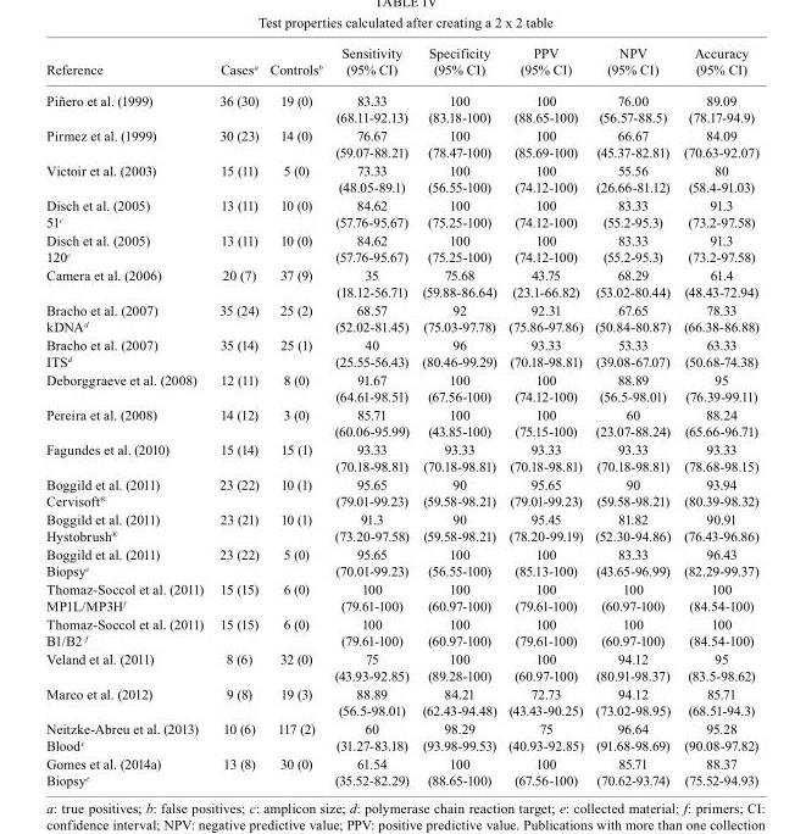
<table><thead><tr><td>Reference</td><td>Cases<sup>a</sup></td><td>Controls<sup>b</sup></td><td>Sensitivity (95% CI)</td><td>Specificity (95% CI)</td><td>PPV (95% CI)</td><td>NPV (95% CI)</td><td>Accuracy (95% CI)</td></tr></thead><tbody><tr><td>Piñero et al. (1999)</td><td>36 (30)</td><td>19 (0)</td><td>83.33 (68.11-92.13)</td><td>100 (83.18-100)</td><td>100 (88.65-100)</td><td>76.00 (56.57-88.5)</td><td>89.09 (78.17-94.9)</td></tr><tr><td>Pirmez et al. (1999)</td><td>30 (23)</td><td>14 (0)</td><td>76.67 (59.07-88.21)</td><td>100 (78.47-100)</td><td>100 (85.69-100)</td><td>66.67 (45.37-82.81)</td><td>84.09 (70.63-92.07)</td></tr><tr><td>Victoir et al. (2003)</td><td>15 (11)</td><td>5 (0)</td><td>73.33 (48.05-89.1)</td><td>100 (56.55-100)</td><td>100 (74.12-100)</td><td>55.56 (26.66-81.12)</td><td>80 (58.4-91.03)</td></tr><tr><td>Disch et al. (2005) 51<sup>c</sup></td><td>13 (11)</td><td>10 (0)</td><td>84.62 (57.76-95.67)</td><td>100 (75.25-100)</td><td>100 (74.12-100)</td><td>83.33 (55.2-95.3)</td><td>91.3 (73.2-97.58)</td></tr><tr><td>Disch et al. (2005) 120<sup>c</sup></td><td>13 (11)</td><td>10 (0)</td><td>84.62 (57.76-95.67)</td><td>100 (75.25-100)</td><td>100 (74.12-100)</td><td>83.33 (55.2-95.3)</td><td>91.3 (73.2-97.58)</td></tr><tr><td>Camera et al. (2006)</td><td>20 (7)</td><td>37 (9)</td><td>35 (18.12-56.71)</td><td>75.68 (59.88-86.64)</td><td>43.75 (23.1-66.82)</td><td>68.29 (53.02-80.44)</td><td>61.4 (48.43-72.94)</td></tr><tr><td>Bracho et al. (2007) kDNA<sup>d</sup></td><td>35 (24)</td><td>25 (2)</td><td>68.57 (52.02-81.45)</td><td>92 (75.03-97.78)</td><td>92.31 (75.86-97.86)</td><td>67.65 (50.84-80.87)</td><td>78.33 (66.38-86.88)</td></tr><tr><td>Bracho et al. (2007) ITS<sup>d</sup></td><td>35 (14)</td><td>25 (1)</td><td>40 (25.55-56.43)</td><td>96 (80.46-99.29)</td><td>93.33 (70.18-98.81)</td><td>53.33 (39.08-67.07)</td><td>63.33 (50.68-74.38)</td></tr><tr><td>Deborggraeve et al. (2008)</td><td>12 (11)</td><td>8 (0)</td><td>91.67 (64.61-98.51)</td><td>100 (67.56-100)</td><td>100 (74.12-100)</td><td>88.89 (56.5-98.01)</td><td>95 (76.39-99.11)</td></tr><tr><td>Pereira et al. (2008)</td><td>14 (12)</td><td>3 (0)</td><td>85.71 (60.06-95.99)</td><td>100 (43.85-100)</td><td>100 (75.15-100)</td><td>60 (23.07-88.24)</td><td>88.24 (65.66-96.71)</td></tr><tr><td>Fagundes et al. (2010)</td><td>15 (14)</td><td>15 (1)</td><td>93.33 (70.18-98.81)</td><td>93.33 (70.18-98.81)</td><td>93.33 (70.18-98.81)</td><td>93.33 (70.18-98.81)</td><td>93.33 (78.68-98.15)</td></tr><tr><td>Boggild et al. (2011) Cervisoft<sup>®</sup></td><td>23 (22)</td><td>10 (1)</td><td>95.65 (79.01-99.23)</td><td>90 (59.58-98.21)</td><td>95.65 (79.01-99.23)</td><td>90 (59.58-98.21)</td><td>93.94 (80.39-98.32)</td></tr><tr><td>Boggild et al. (2011) Hystobrush<sup>®</sup></td><td>23 (21)</td><td>10 (1)</td><td>91.3 (73.20-97.58)</td><td>90 (59.58-98.21)</td><td>95.45 (78.20-99.19)</td><td>81.82 (52.30-94.86)</td><td>90.91 (76.43-96.86)</td></tr><tr><td>Boggild et al. (2011) Biopsy<sup>e</sup></td><td>23 (22)</td><td>5 (0)</td><td>95.65 (70.01-99.23)</td><td>100 (56.55-100)</td><td>100 (85.13-100)</td><td>83.33 (43.65-96.99)</td><td>96.43 (82.29-99.37)</td></tr><tr><td>Thomaz-Soccol et al. (2011) MP1L/MP3H<sup>f</sup></td><td>15 (15)</td><td>6 (0)</td><td>100 (79.61-100)</td><td>100 (60.97-100)</td><td>100 (79.61-100)</td><td>100 (60.97-100)</td><td>100 (84.54-100)</td></tr><tr><td>Thomaz-Soccol et al. (2011) B1/B2 <sup>f</sup></td><td>15 (15)</td><td>6 (0)</td><td>100 (79.61-100)</td><td>100 (60.97-100)</td><td>100 (79.61-100)</td><td>100 (60.97-100)</td><td>100 (84.54-100)</td></tr><tr><td>Veland et al. (2011)</td><td>8 (6)</td><td>32 (0)</td><td>75 (43.93-92.85)</td><td>100 (89.28-100)</td><td>100 (60.97-100)</td><td>94.12 (80.91-98.37)</td><td>95 (83.5-98.62)</td></tr><tr><td>Marco et al. (2012)</td><td>9 (8)</td><td>19 (3)</td><td>88.89 (56.5-98.01)</td><td>84.21 (62.43-94.48)</td><td>72.73 (43.43-90.25)</td><td>94.12 (73.02-98.95)</td><td>85.71 (68.51-94.3)</td></tr><tr><td>Neitzke-Abreu et al. (2013) Blood<sup>e</sup></td><td>10 (6)</td><td>117 (2)</td><td>60 (31.27-83.18)</td><td>98.29 (93.98-99.53)</td><td>75 (40.93-92.85)</td><td>96.64 (91.68-98.69)</td><td>95.28 (90.08-97.82)</td></tr><tr><td>Gomes et al. (2014a) Biopsy<sup>e</sup></td><td>13 (8)</td><td>30 (0)</td><td>61.54 (35.52-82.29)</td><td>100 (88.65-100)</td><td>100 (67.56-100)</td><td>85.71 (70.62-93.74)</td><td>88.37 (75.52-94.93)</td></tr></tbody></table>